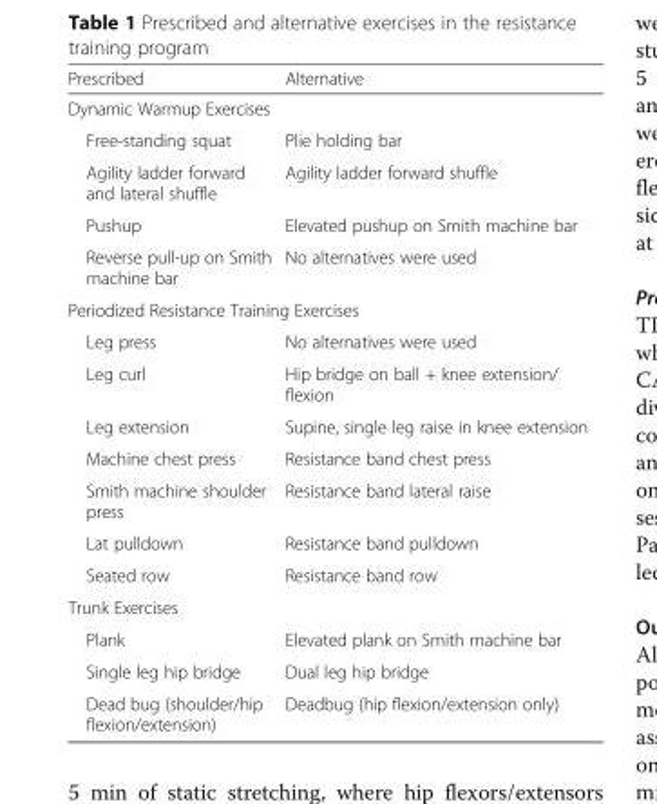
<table><thead><tr><td>Prescribed</td><td>Alternative</td></tr></thead><tbody><tr><td colspan="2">Dynamic Warmup Exercises</td></tr><tr><td>Free-standing squat</td><td>Plie holding bar</td></tr><tr><td>Agility ladder forward and lateral shuffle</td><td>Agility ladder forward shuffle</td></tr><tr><td>Pushup</td><td>Elevated pushup on Smith machine bar</td></tr><tr><td>Reverse pull-up on Smith machine bar</td><td>No alternatives were used</td></tr><tr><td colspan="2">Periodized Resistance Training Exercises</td></tr><tr><td>Leg press</td><td>No alternatives were used</td></tr><tr><td>Leg curl</td><td>Hip bridge on ball + knee extension/ flexion</td></tr><tr><td>Leg extension</td><td>Supine, single leg raise in knee extension</td></tr><tr><td>Machine chest press</td><td>Resistance band chest press</td></tr><tr><td>Smith machine shoulder press</td><td>Resistance band lateral raise</td></tr><tr><td>Lat pulldown</td><td>Resistance band pulldown</td></tr><tr><td>Seated row</td><td>Resistance band row</td></tr><tr><td colspan="2">Trunk Exercises</td></tr><tr><td>Plank</td><td>Elevated plank on Smith machine bar</td></tr><tr><td>Single leg hip bridge</td><td>Dual leg hip bridge</td></tr><tr><td>Dead bug (shoulder/hip flexion/extension)</td><td>Deadbug (hip flexion/extension only)</td></tr></tbody></table>